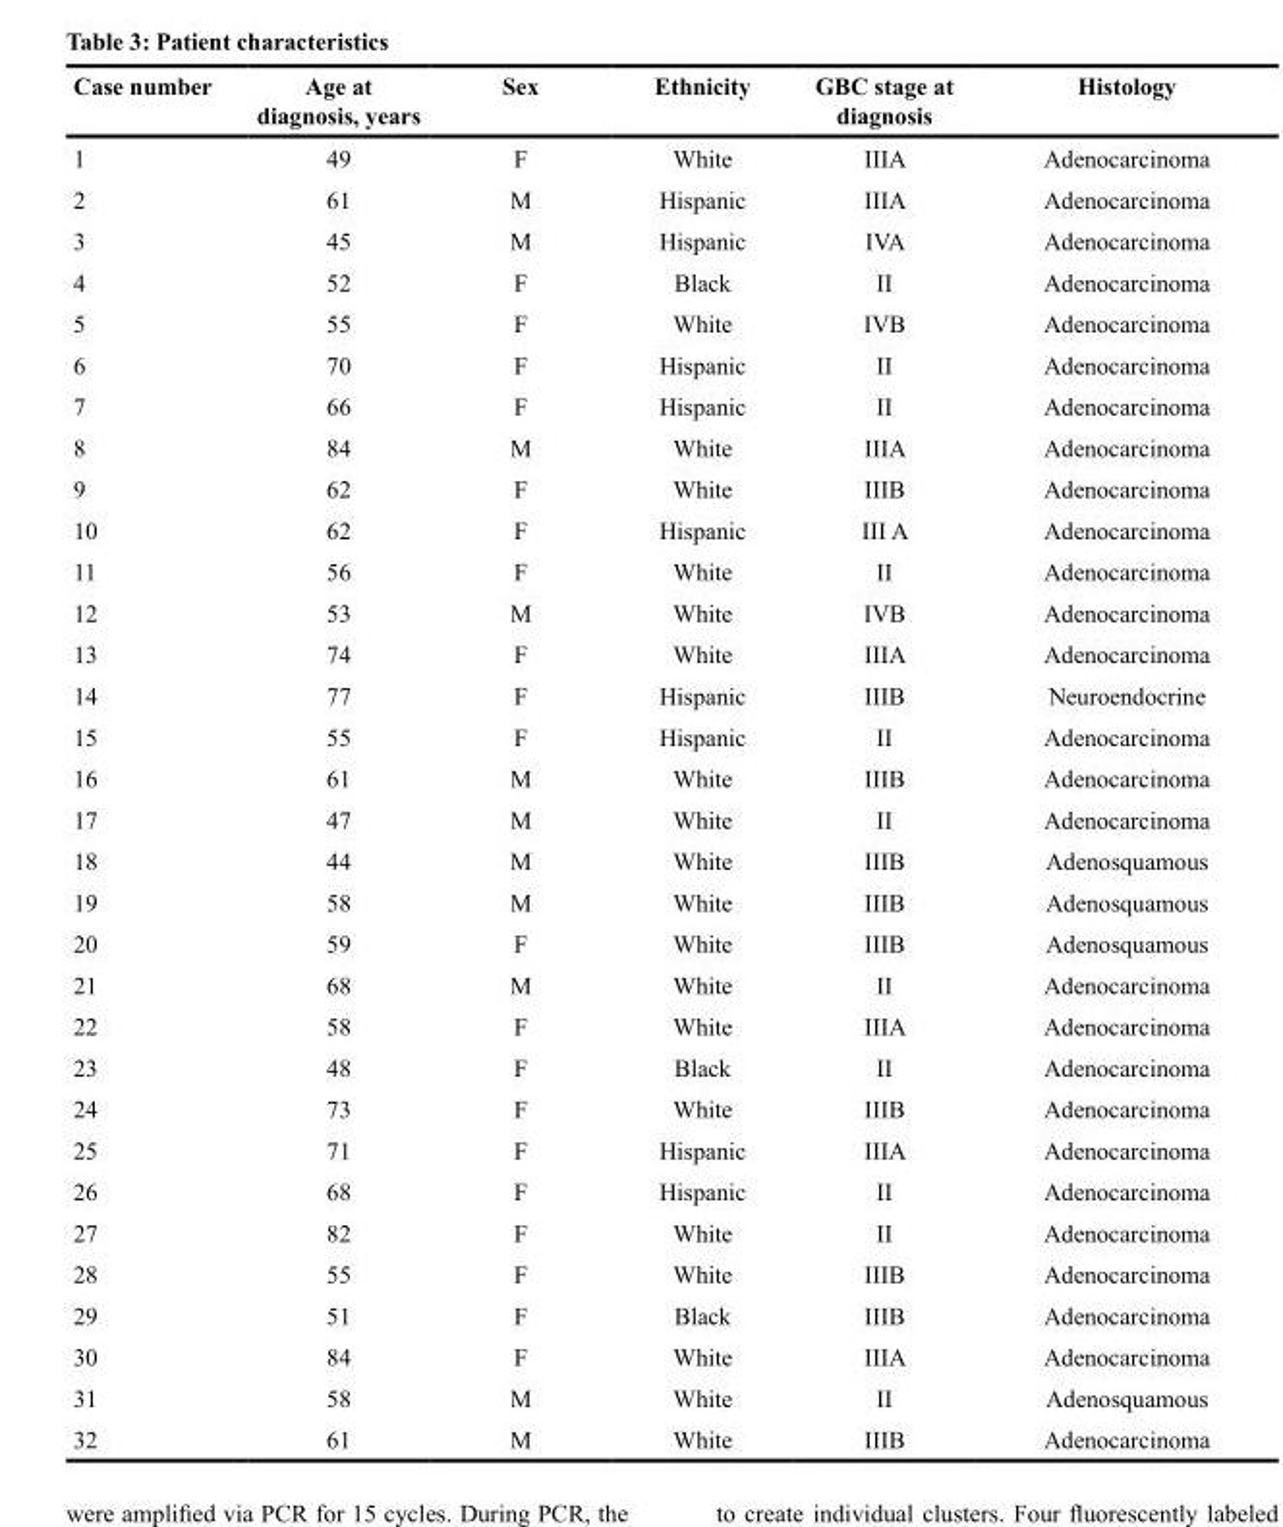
<table><thead><tr><td>Case number</td><td>Age at diagnosis, years</td><td>Sex</td><td>Ethnicity</td><td>GBC stage at diagnosis</td><td>Histology</td></tr></thead><tbody><tr><td>1</td><td>49</td><td>F</td><td>White</td><td>IIIA</td><td>Adenocarcinoma</td></tr><tr><td>2</td><td>61</td><td>M</td><td>Hispanic</td><td>IIIA</td><td>Adenocarcinoma</td></tr><tr><td>3</td><td>45</td><td>M</td><td>Hispanic</td><td>IVA</td><td>Adenocarcinoma</td></tr><tr><td>4</td><td>52</td><td>F</td><td>Black</td><td>II</td><td>Adenocarcinoma</td></tr><tr><td>5</td><td>55</td><td>F</td><td>White</td><td>IVB</td><td>Adenocarcinoma</td></tr><tr><td>6</td><td>70</td><td>F</td><td>Hispanic</td><td>II</td><td>Adenocarcinoma</td></tr><tr><td>7</td><td>66</td><td>F</td><td>Hispanic</td><td>II</td><td>Adenocarcinoma</td></tr><tr><td>8</td><td>84</td><td>M</td><td>White</td><td>IIIA</td><td>Adenocarcinoma</td></tr><tr><td>9</td><td>62</td><td>F</td><td>White</td><td>IIIB</td><td>Adenocarcinoma</td></tr><tr><td>10</td><td>62</td><td>F</td><td>Hispanic</td><td>III A</td><td>Adenocarcinoma</td></tr><tr><td>11</td><td>56</td><td>F</td><td>White</td><td>II</td><td>Adenocarcinoma</td></tr><tr><td>12</td><td>53</td><td>M</td><td>White</td><td>IVB</td><td>Adenocarcinoma</td></tr><tr><td>13</td><td>74</td><td>F</td><td>White</td><td>IIIA</td><td>Adenocarcinoma</td></tr><tr><td>14</td><td>77</td><td>F</td><td>Hispanic</td><td>IIIB</td><td>Neuroendocrine</td></tr><tr><td>15</td><td>55</td><td>F</td><td>Hispanic</td><td>II</td><td>Adenocarcinoma</td></tr><tr><td>16</td><td>61</td><td>M</td><td>White</td><td>IIIB</td><td>Adenocarcinoma</td></tr><tr><td>17</td><td>47</td><td>M</td><td>White</td><td>II</td><td>Adenocarcinoma</td></tr><tr><td>18</td><td>44</td><td>M</td><td>White</td><td>IIIB</td><td>Adenosquamous</td></tr><tr><td>19</td><td>58</td><td>M</td><td>White</td><td>IIIB</td><td>Adenosquamous</td></tr><tr><td>20</td><td>59</td><td>F</td><td>White</td><td>IIIB</td><td>Adenosquamous</td></tr><tr><td>21</td><td>68</td><td>M</td><td>White</td><td>II</td><td>Adenocarcinoma</td></tr><tr><td>22</td><td>58</td><td>F</td><td>White</td><td>IIIA</td><td>Adenocarcinoma</td></tr><tr><td>23</td><td>48</td><td>F</td><td>Black</td><td>II</td><td>Adenocarcinoma</td></tr><tr><td>24</td><td>73</td><td>F</td><td>White</td><td>IIIB</td><td>Adenocarcinoma</td></tr><tr><td>25</td><td>71</td><td>F</td><td>Hispanic</td><td>IIIA</td><td>Adenocarcinoma</td></tr><tr><td>26</td><td>68</td><td>F</td><td>Hispanic</td><td>II</td><td>Adenocarcinoma</td></tr><tr><td>27</td><td>82</td><td>F</td><td>White</td><td>II</td><td>Adenocarcinoma</td></tr><tr><td>28</td><td>55</td><td>F</td><td>White</td><td>IIIB</td><td>Adenocarcinoma</td></tr><tr><td>29</td><td>51</td><td>F</td><td>Black</td><td>IIIB</td><td>Adenocarcinoma</td></tr><tr><td>30</td><td>84</td><td>F</td><td>White</td><td>IIIA</td><td>Adenocarcinoma</td></tr><tr><td>31</td><td>58</td><td>M</td><td>White</td><td>II</td><td>Adenosquamous</td></tr><tr><td>32</td><td>61</td><td>M</td><td>White</td><td>IIIB</td><td>Adenocarcinoma</td></tr></tbody></table>